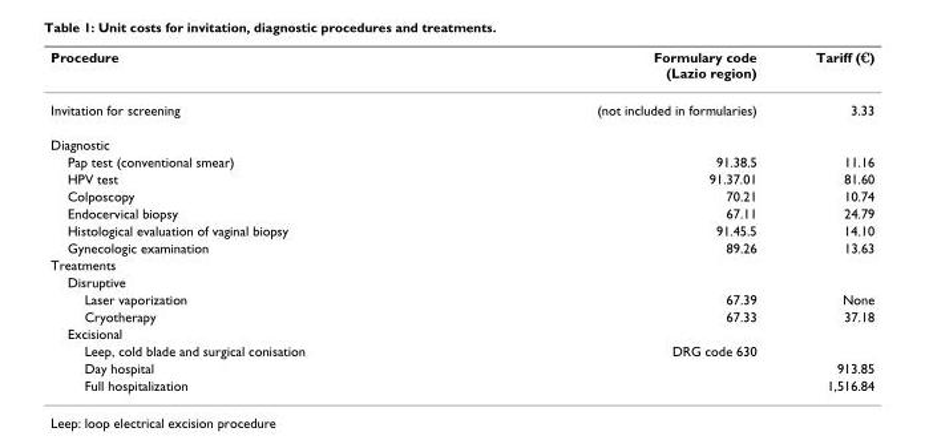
<table><thead><tr><td>Procedure</td><td>Formulary code (Lazio region)</td><td>Tariff (€)</td></tr></thead><tbody><tr><td>Invitation for screening</td><td>(not included in formularies)</td><td>3.33</td></tr><tr><td colspan="3">Diagnostic</td></tr><tr><td>Pap test (conventional smear)</td><td>91.38.5</td><td>11.16</td></tr><tr><td>HPV test</td><td>91.37.01</td><td>81.60</td></tr><tr><td>Colposcopy</td><td>70.21</td><td>10.74</td></tr><tr><td>Endocervical biopsy</td><td>67.11</td><td>24.79</td></tr><tr><td>Histological evaluation of vaginal biopsy</td><td>91.45.5</td><td>14.10</td></tr><tr><td>Gynecologic examination</td><td>89.26</td><td>13.63</td></tr><tr><td colspan="3">Treatments</td></tr><tr><td colspan="3">Disruptive</td></tr><tr><td>Laser vaporization</td><td>67.39</td><td>None</td></tr><tr><td>Cryotherapy</td><td>67.33</td><td>37.18</td></tr><tr><td colspan="3">Excisional</td></tr><tr><td>Leep, cold blade and surgical conisation</td><td>DRG code 630</td><td></td></tr><tr><td>Day hospital</td><td></td><td>913.85</td></tr><tr><td>Full hospitalization</td><td></td><td>1,516.84</td></tr></tbody></table>